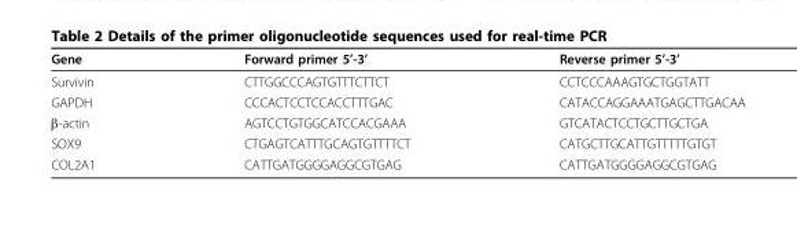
<table><thead><tr><td>Gene</td><td>Forward primer 5’-3’</td><td>Reverse primer 5’-3’</td></tr></thead><tbody><tr><td>Survivin</td><td>CTTGGCCCAGTGTTTCTTCT</td><td>CCTCCCAAAGTGCTGGTATT</td></tr><tr><td>GAPDH</td><td>CCCACTCCTCCACCTTTGAC</td><td>CATACCAGGAAATGAGCTTGACAA</td></tr><tr><td>β-actin</td><td>AGTCCTGTGGCATCCACGAAA</td><td>GTCATACTCCTGCTTGCTGA</td></tr><tr><td>SOX9</td><td>CTGAGTCATTTGCAGTGTTTTCT</td><td>CATGCTTGCATTGTTTTTGTGT</td></tr><tr><td>COL2A1</td><td>CATTGATGGGGAGGCGTGAG</td><td>CATTGATGGGGAGGCGTGAG</td></tr></tbody></table>